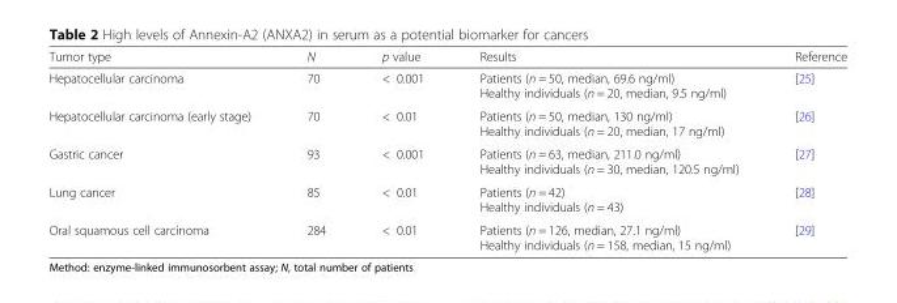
<table><thead><tr><td>Tumor type</td><td>N</td><td>p value</td><td>Results</td><td>Reference</td></tr></thead><tbody><tr><td>Hepatocellular carcinoma</td><td>70</td><td>&lt; 0.001</td><td>Patients (n = 50, median, 69.6 ng/ml) Healthy individuals (n = 20, median, 9.5 ng/ml)</td><td>[25]</td></tr><tr><td>Hepatocellular carcinoma (early stage)</td><td>70</td><td>&lt; 0.01</td><td>Patients (n = 50, median, 130 ng/ml) Healthy individuals (n = 20, median, 17 ng/ml)</td><td>[26]</td></tr><tr><td>Gastric cancer</td><td>93</td><td>&lt; 0.001</td><td>Patients (n = 63, median, 211.0 ng/ml) Healthy individuals (n = 30, median, 120.5 ng/ml)</td><td>[27]</td></tr><tr><td>Lung cancer</td><td>85</td><td>&lt; 0.01</td><td>Patients (n = 42) Healthy individuals (n = 43)</td><td>[28]</td></tr><tr><td>Oral squamous cell carcinoma</td><td>284</td><td>&lt; 0.01</td><td>Patients (n = 126, median, 27.1 ng/ml) Healthy individuals (n = 158, median, 15 ng/ml)</td><td>[29]</td></tr></tbody></table>